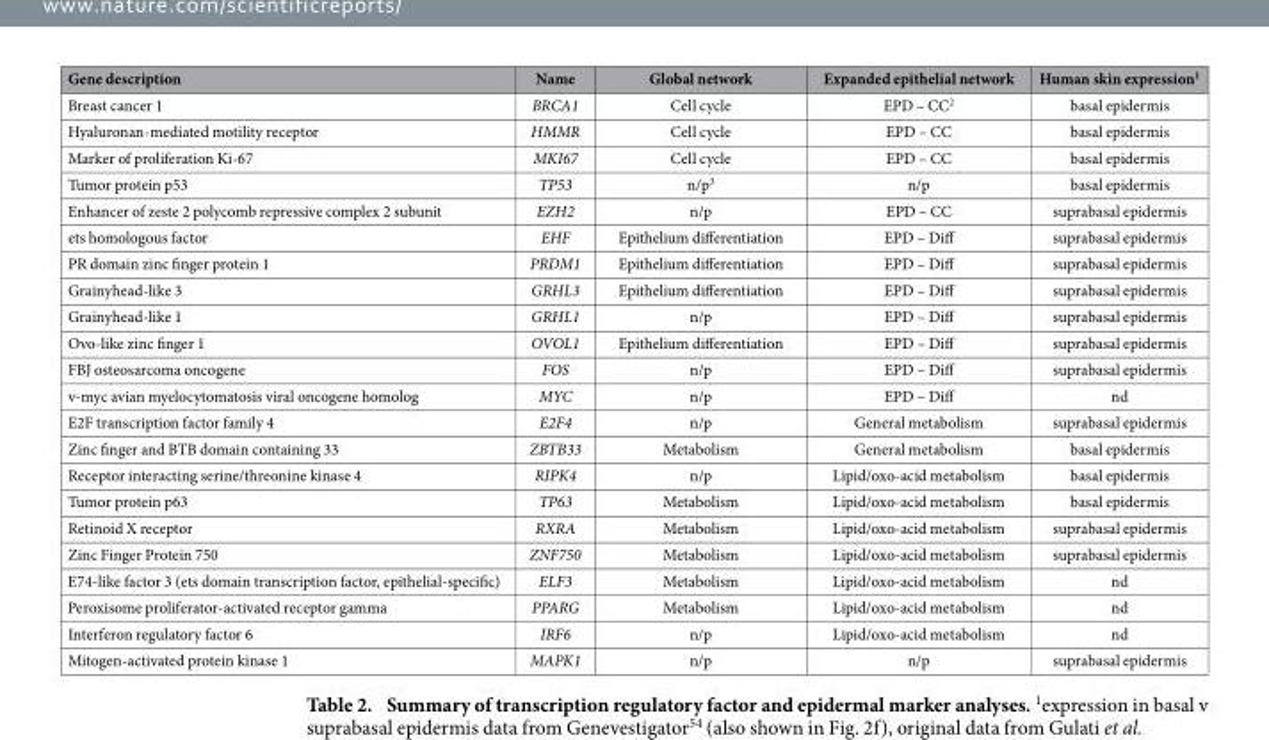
<table><thead><tr><td>Gene description</td><td>Name</td><td>Global network</td><td>Expanded epithelial network</td><td>Human skin expression<sup>1</sup></td></tr></thead><tbody><tr><td>Breast cancer 1</td><td>BRCA1</td><td>Cell cycle</td><td>EPD – CC<sup>2</sup></td><td>basal epidermis</td></tr><tr><td>Hyaluronan-mediated motility receptor</td><td>HMMR</td><td>Cell cycle</td><td>EPD – CC</td><td>basal epidermis</td></tr><tr><td>Marker of proliferation Ki-67</td><td>MKI67</td><td>Cell cycle</td><td>EPD – CC</td><td>basal epidermis</td></tr><tr><td>Tumor protein p53</td><td>TP53</td><td>n/p<sup>3</sup></td><td>n/p</td><td>basal epidermis</td></tr><tr><td>Enhancer of zeste 2 polycomb repressive complex 2 subunit</td><td>EZH2</td><td>n/p</td><td>EPD – CC</td><td>suprabasal epidermis</td></tr><tr><td>ets homologous factor</td><td>EHF</td><td>Epithelium differentiation</td><td>EPD – Diff</td><td>suprabasal epidermis</td></tr><tr><td>PR domain zinc finger protein 1</td><td>PRDM1</td><td>Epithelium differentiation</td><td>EPD – Diff</td><td>suprabasal epidermis</td></tr><tr><td>Grainyhead-like 3</td><td>GRHL3</td><td>Epithelium differentiation</td><td>EPD – Diff</td><td>suprabasal epidermis</td></tr><tr><td>Grainyhead-like 1</td><td>GRHL1</td><td>n/p</td><td>EPD – Diff</td><td>suprabasal epidermis</td></tr><tr><td>Ovo-like zinc finger 1</td><td>OVOL1</td><td>Epithelium differentiation</td><td>EPD – Diff</td><td>suprabasal epidermis</td></tr><tr><td>FBJ osteosarcoma oncogene</td><td>FOS</td><td>n/p</td><td>EPD – Diff</td><td>suprabasal epidermis</td></tr><tr><td>v-myc avian myelocytomatosis viral oncogene homolog</td><td>MYC</td><td>n/p</td><td>EPD – Diff</td><td>nd</td></tr><tr><td>E2F transcription factor family 4</td><td>E2F4</td><td>n/p</td><td>General metabolism</td><td>suprabasal epidermis</td></tr><tr><td>Zinc finger and BTB domain containing 33</td><td>ZBTB33</td><td>Metabolism</td><td>General metabolism</td><td>basal epidermis</td></tr><tr><td>Receptor interacting serine/threonine kinase 4</td><td>RIPK4</td><td>n/p</td><td>Lipid/oxo-acid metabolism</td><td>basal epidermis</td></tr><tr><td>Tumor protein p63</td><td>TP63</td><td>Metabolism</td><td>Lipid/oxo-acid metabolism</td><td>basal epidermis</td></tr><tr><td>Retinoid X receptor</td><td>RXRA</td><td>Metabolism</td><td>Lipid/oxo-acid metabolism</td><td>suprabasal epidermis</td></tr><tr><td>Zinc Finger Protein 750</td><td>ZNF750</td><td>Metabolism</td><td>Lipid/oxo-acid metabolism</td><td>suprabasal epidermis</td></tr><tr><td>E74-like factor 3 (ets domain transcription factor, epithelial-specific)</td><td>ELF3</td><td>Metabolism</td><td>Lipid/oxo-acid metabolism</td><td>nd</td></tr><tr><td>Peroxisome proliferator-activated receptor gamma</td><td>PPARG</td><td>Metabolism</td><td>Lipid/oxo-acid metabolism</td><td>nd</td></tr><tr><td>Interferon regulatory factor 6</td><td>IRF6</td><td>n/p</td><td>Lipid/oxo-acid metabolism</td><td>nd</td></tr><tr><td>Mitogen-activated protein kinase 1</td><td>MAPK1</td><td>n/p</td><td>n/p</td><td>suprabasal epidermis</td></tr></tbody></table>